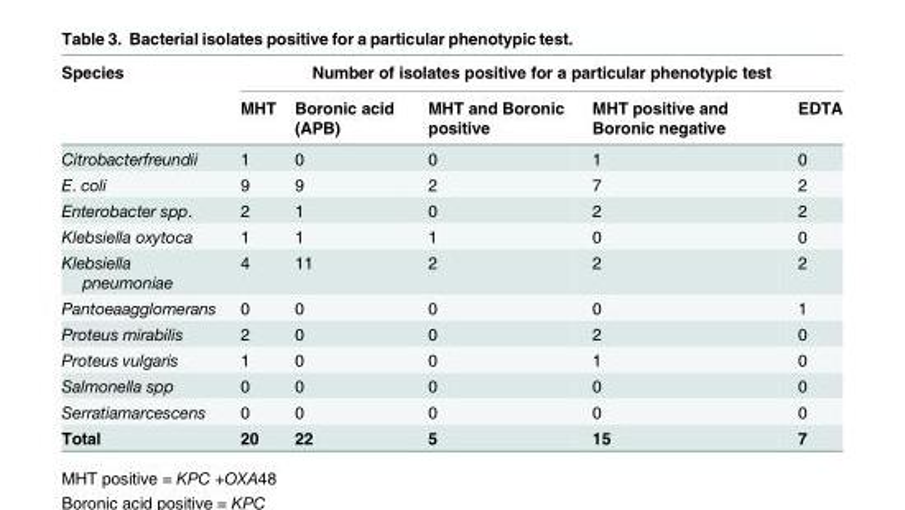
<table><thead><tr><td rowspan="2">Species</td><td colspan="5">Number of isolates positive for a particular phenotypic test</td></tr><tr><td>MHT</td><td>Boronic acid (APB)</td><td>MHT and Boronic positive</td><td>MHT positive and Boronic negative</td><td>EDTA</td></tr></thead><tbody><tr><td>Citrobacterfreundii</td><td>1</td><td>0</td><td>0</td><td>1</td><td>0</td></tr><tr><td>E. coli</td><td>9</td><td>9</td><td>2</td><td>7</td><td>2</td></tr><tr><td>Enterobacter spp.</td><td>2</td><td>1</td><td>0</td><td>2</td><td>2</td></tr><tr><td>Klebsiella oxytoca</td><td>1</td><td>1</td><td>1</td><td>0</td><td>0</td></tr><tr><td>Klebsiella pneumoniae</td><td>4</td><td>11</td><td>2</td><td>2</td><td>2</td></tr><tr><td>Pantoeaagglomerans</td><td>0</td><td>0</td><td>0</td><td>0</td><td>1</td></tr><tr><td>Proteus mirabilis</td><td>2</td><td>0</td><td>0</td><td>2</td><td>0</td></tr><tr><td>Proteus vulgaris</td><td>1</td><td>0</td><td>0</td><td>1</td><td>0</td></tr><tr><td>Salmonella spp</td><td>0</td><td>0</td><td>0</td><td>0</td><td>0</td></tr><tr><td>Serratiamarcescens</td><td>0</td><td>0</td><td>0</td><td>0</td><td>0</td></tr><tr><td>Total</td><td>20</td><td>22</td><td>5</td><td>15</td><td>7</td></tr></tbody></table>